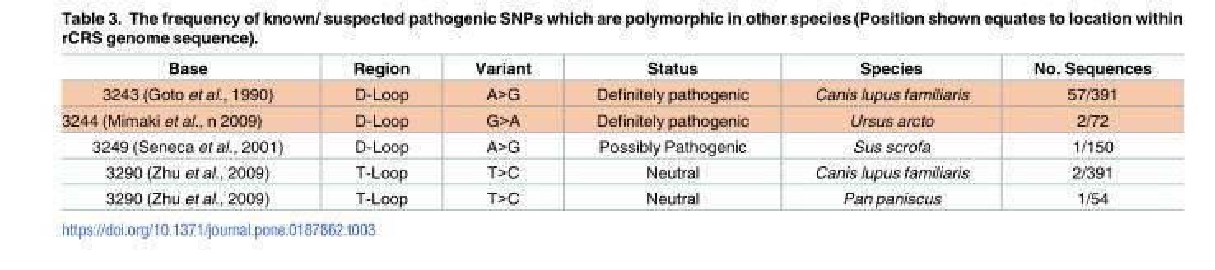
<table><thead><tr><td>Base</td><td>Region</td><td>Variant</td><td>Status</td><td>Species</td><td>No. Sequences</td></tr></thead><tbody><tr><td>3243 (Goto et al., 1990)</td><td>D-Loop</td><td>A&gt;G</td><td>Definitely pathogenic</td><td>Canis lupus familiaris</td><td>57/391</td></tr><tr><td>3244 (Mimaki et al., n 2009)</td><td>D-Loop</td><td>G&gt;A</td><td>Definitely pathogenic</td><td>Ursus arcto</td><td>2/72</td></tr><tr><td>3249 (Seneca et al., 2001)</td><td>D-Loop</td><td>A&gt;G</td><td>Possibly Pathogenic</td><td>Sus scrofa</td><td>1/150</td></tr><tr><td>3290 (Zhu et al., 2009)</td><td>T-Loop</td><td>T&gt;C</td><td>Neutral</td><td>Canis lupus familiaris</td><td>2/391</td></tr><tr><td>3290 (Zhu et al., 2009)</td><td>T-Loop</td><td>T&gt;C</td><td>Neutral</td><td>Pan paniscus</td><td>1/54</td></tr></tbody></table>